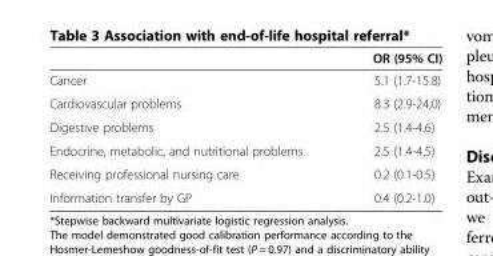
<table><thead><tr><td></td><td>OR (95% CI)</td></tr></thead><tbody><tr><td>Cancer</td><td>5.1 (1.7-15.8)</td></tr><tr><td>Cardiovascular problems</td><td>8.3 (2.9-24,0)</td></tr><tr><td>Digestive problems</td><td>2.5 (1.4-4.6)</td></tr><tr><td>Endocrine, metabolic, and nutritional problems</td><td>2.5 (1.4-4.5)</td></tr><tr><td>Receiving professional nursing care</td><td>0.2 (0.1-0.5)</td></tr><tr><td>Information transfer by GP</td><td>0.4 (0.2-1.0)</td></tr></tbody></table>